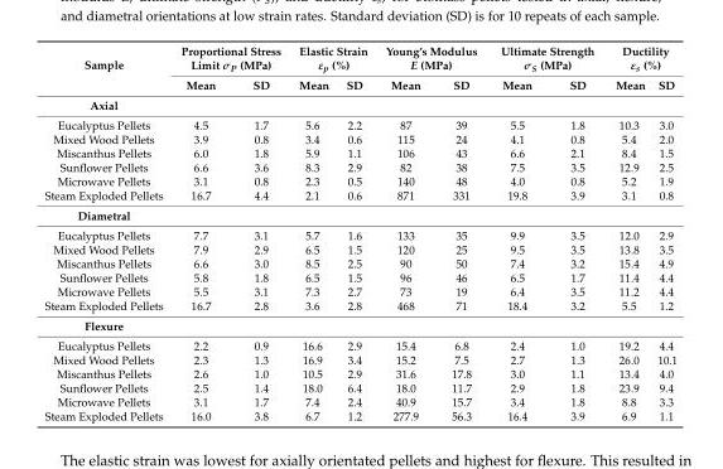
<table><thead><tr><td rowspan="2">Sample</td><td colspan="2">Proportional Stress Limit σ<sub>P</sub> (MPa)</td><td colspan="2">Elastic Strain ε<sub>p</sub> (%)</td><td colspan="2">Young’s Modulus E (MPa)</td><td colspan="2">Ultimate Strength σ<sub>S</sub> (MPa)</td><td colspan="2">Ductility ε<sub>s</sub> (%)</td></tr><tr><td>Mean</td><td>SD</td><td>Mean</td><td>SD</td><td>Mean</td><td>SD</td><td>Mean</td><td>SD</td><td>Mean</td><td>SD</td></tr></thead><tbody><tr><td colspan="11">Axial</td></tr><tr><td>Eucalyptus Pellets</td><td>4.5</td><td>1.7</td><td>5.6</td><td>2.2</td><td>87</td><td>39</td><td>5.5</td><td>1.8</td><td>10.3</td><td>3.0</td></tr><tr><td>Mixed Wood Pellets</td><td>3.9</td><td>0.8</td><td>3.4</td><td>0.6</td><td>115</td><td>24</td><td>4.1</td><td>0.8</td><td>5.4</td><td>2.0</td></tr><tr><td>Miscanthus Pellets</td><td>6.0</td><td>1.8</td><td>5.9</td><td>1.1</td><td>106</td><td>43</td><td>6.6</td><td>2.1</td><td>8.4</td><td>1.5</td></tr><tr><td>Sunflower Pellets</td><td>6.6</td><td>3.6</td><td>8.3</td><td>2.9</td><td>82</td><td>38</td><td>7.5</td><td>3.5</td><td>12.9</td><td>2.5</td></tr><tr><td>Microwave Pellets</td><td>3.1</td><td>0.8</td><td>2.3</td><td>0.5</td><td>140</td><td>48</td><td>4.0</td><td>0.8</td><td>5.2</td><td>1.9</td></tr><tr><td>Steam Exploded Pellets</td><td>16.7</td><td>4.4</td><td>2.1</td><td>0.6</td><td>871</td><td>331</td><td>19.8</td><td>3.9</td><td>3.1</td><td>0.8</td></tr><tr><td colspan="11">Diametral</td></tr><tr><td>Eucalyptus Pellets</td><td>7.7</td><td>3.1</td><td>5.7</td><td>1.6</td><td>133</td><td>35</td><td>9.9</td><td>3.5</td><td>12.0</td><td>2.9</td></tr><tr><td>Mixed Wood Pellets</td><td>7.9</td><td>2.9</td><td>6.5</td><td>1.5</td><td>120</td><td>25</td><td>9.5</td><td>3.5</td><td>13.8</td><td>3.5</td></tr><tr><td>Miscanthus Pellets</td><td>6.6</td><td>3.0</td><td>8.5</td><td>2.5</td><td>90</td><td>50</td><td>7.4</td><td>3.2</td><td>15.4</td><td>4.9</td></tr><tr><td>Sunflower Pellets</td><td>5.8</td><td>1.8</td><td>6.5</td><td>1.5</td><td>96</td><td>46</td><td>6.5</td><td>1.7</td><td>11.4</td><td>4.4</td></tr><tr><td>Microwave Pellets</td><td>5.5</td><td>3.1</td><td>7.3</td><td>2.7</td><td>73</td><td>19</td><td>6.4</td><td>3.5</td><td>11.2</td><td>4.4</td></tr><tr><td>Steam Exploded Pellets</td><td>16.7</td><td>2.8</td><td>3.6</td><td>2.8</td><td>468</td><td>71</td><td>18.4</td><td>3.2</td><td>5.5</td><td>1.2</td></tr><tr><td colspan="11">Flexure</td></tr><tr><td>Eucalyptus Pellets</td><td>2.2</td><td>0.9</td><td>16.6</td><td>2.9</td><td>15.4</td><td>6.8</td><td>2.4</td><td>1.0</td><td>19.2</td><td>4.4</td></tr><tr><td>Mixed Wood Pellets</td><td>2.3</td><td>1.3</td><td>16.9</td><td>3.4</td><td>15.2</td><td>7.5</td><td>2.7</td><td>1.3</td><td>26.0</td><td>10.1</td></tr><tr><td>Miscanthus Pellets</td><td>2.6</td><td>1.0</td><td>10.5</td><td>2.9</td><td>31.6</td><td>17.8</td><td>3.0</td><td>1.1</td><td>13.4</td><td>4.0</td></tr><tr><td>Sunflower Pellets</td><td>2.5</td><td>1.4</td><td>18.0</td><td>6.4</td><td>18.0</td><td>11.7</td><td>2.9</td><td>1.8</td><td>23.9</td><td>9.4</td></tr><tr><td>Microwave Pellets</td><td>3.1</td><td>1.7</td><td>7.4</td><td>2.4</td><td>40.9</td><td>15.7</td><td>3.4</td><td>1.8</td><td>8.8</td><td>3.3</td></tr><tr><td>Steam Exploded Pellets</td><td>16.0</td><td>3.8</td><td>6.7</td><td>1.2</td><td>277.9</td><td>56.3</td><td>16.4</td><td>3.9</td><td>6.9</td><td>1.1</td></tr></tbody></table>